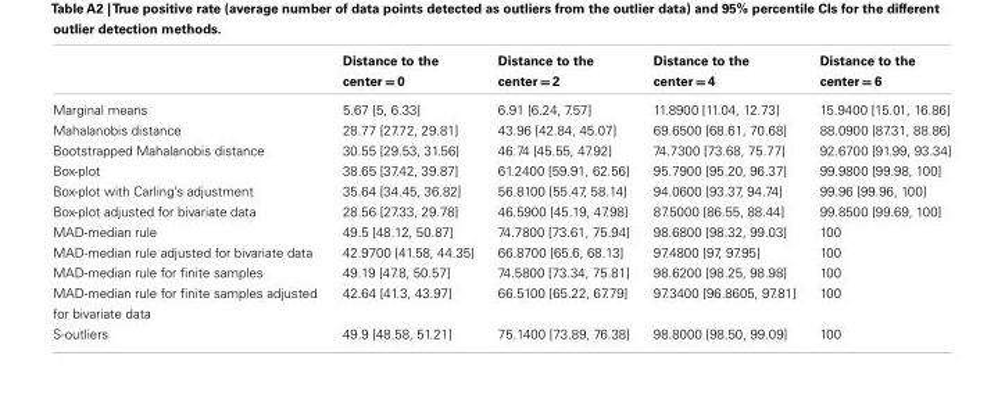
<table><thead><tr><td></td><td>Distance to the center = 0</td><td>Distance to the center = 2</td><td>Distance to the center = 4</td><td>Distance to the center = 6</td></tr></thead><tbody><tr><td>Marginal means</td><td>5.67 [5, 6.33]</td><td>6.91 [6.24, 7.57]</td><td>11.8900 [11.04, 12.73]</td><td>15.9400 [15.01, 16.86]</td></tr><tr><td>Mahalanobis distance</td><td>28.77 [27.72, 29.81]</td><td>43.96 [42.84, 45.07]</td><td>69.6500 [68.61, 70.68]</td><td>88.0900 [87.31, 88.86]</td></tr><tr><td>Bootstrapped Mahalanobis distance</td><td>30.55 [29.53, 31.56]</td><td>46.74 [45.55, 47.92]</td><td>74.7300 [73.68, 75.77]</td><td>92.6700 [91.99, 93.34]</td></tr><tr><td>Box-plot</td><td>38.65 [37.42, 39.87]</td><td>61.2400 [59.91, 62.56]</td><td>95.7900 [95.20, 96.37]</td><td>99.9800 [99.98, 100]</td></tr><tr><td>Box-plot with Carling’s adjustment</td><td>35.64 [34.45, 36.82]</td><td>56.8100 [55.47, 58.14]</td><td>94.0600 [93.37, 94.74]</td><td>99.96 [99.96, 100]</td></tr><tr><td>Box-plot adjusted for bivariate data</td><td>28.56 [27.33, 29.78]</td><td>46.5900 [45.19, 47.98]</td><td>87.5000 [86.55, 88.44]</td><td>99.8500 [99.69, 100]</td></tr><tr><td>MAD-median rule</td><td>49.5 [48.12, 50.87]</td><td>74.7800 [73.61, 75.94]</td><td>98.6800 [98.32, 99.03]</td><td>100</td></tr><tr><td>MAD-median rule adjusted for bivariate data</td><td>42.9700 [41.58, 44.35]</td><td>66.8700 [65.6, 68.13]</td><td>97.4800 [97, 97.95]</td><td>100</td></tr><tr><td>MAD-median rule for finite samples</td><td>49.19 [47.8, 50.57]</td><td>74.5800 [73.34, 75.81]</td><td>98.6200 [98.25, 98.98]</td><td>100</td></tr><tr><td>MAD-median rule for finite samples adjusted for bivariate data</td><td>42.64 [41.3, 43.97]</td><td>66.5100 [65.22, 67.79]</td><td>97.3400 [96.8605, 97.81]</td><td>100</td></tr><tr><td>S-outliers</td><td>49.9 [48.58, 51.21]</td><td>75.1400 [73.89, 76.38]</td><td>98.8000 [98.50, 99.09]</td><td>100</td></tr></tbody></table>